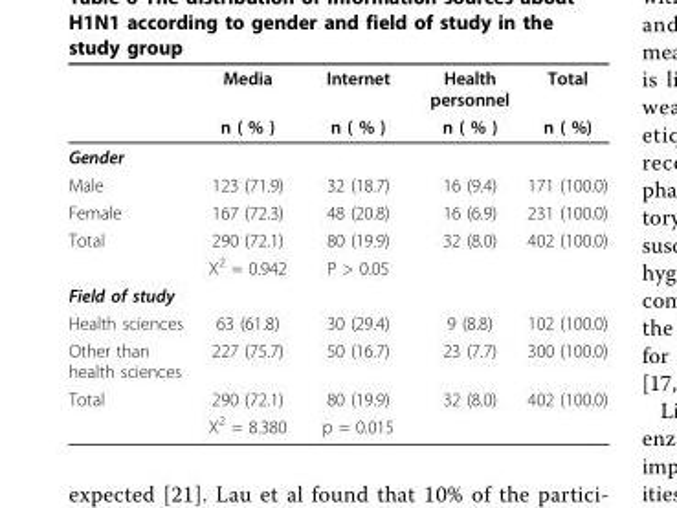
<table><thead><tr><td rowspan="2"></td><td rowspan="2">Media n ( % )</td><td rowspan="2">Internet n ( % )</td><td rowspan="2">Health personnel n ( % )</td><td rowspan="2">Total n ( %)</td></tr><tr></tr></thead><tbody><tr><td colspan="5">Gender</td></tr><tr><td>Male</td><td>123 (71.9)</td><td>32 (18.7)</td><td>16 (9.4)</td><td>171 (100.0)</td></tr><tr><td>Female</td><td>167 (72.3)</td><td>48 (20.8)</td><td>16 (6.9)</td><td>231 (100.0)</td></tr><tr><td rowspan="2">Total</td><td>290 (72.1)</td><td>80 (19.9)</td><td>32 (8.0)</td><td>402 (100.0)</td></tr><tr><td>X<sup>2</sup> = 0.942</td><td>P &gt; 0.05</td><td></td><td></td></tr><tr><td colspan="5">Field of study</td></tr><tr><td>Health sciences</td><td>63 (61.8)</td><td>30 (29.4)</td><td>9 (8.8)</td><td>102 (100.0)</td></tr><tr><td>Other than health sciences</td><td>227 (75.7)</td><td>50 (16.7)</td><td>23 (7.7)</td><td>300 (100.0)</td></tr><tr><td rowspan="2">Total</td><td>290 (72.1)</td><td>80 (19.9)</td><td>32 (8.0)</td><td>402 (100.0)</td></tr><tr><td>X<sup>2</sup> = 8.380</td><td>p = 0.015</td><td></td><td></td></tr></tbody></table>